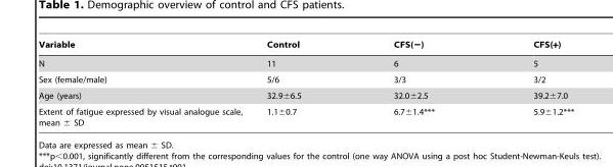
<table><thead><tr><td>Variable</td><td>Control</td><td>CFS(−)</td><td>CFS(+)</td></tr></thead><tbody><tr><td>N</td><td>11</td><td>6</td><td>5</td></tr><tr><td>Sex (female/male)</td><td>5/6</td><td>3/3</td><td>3/2</td></tr><tr><td>Age (years)</td><td>32.9±6.5</td><td>32.0±2.5</td><td>39.2±7.0</td></tr><tr><td>Extent of fatigue expressed by visual analogue scale, mean ± SD</td><td>1.1±0.7</td><td>6.7±1.4***</td><td>5.9±1.2***</td></tr></tbody></table>